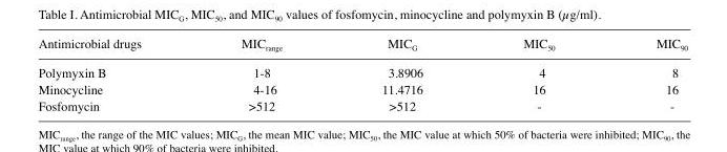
<table><thead><tr><td>Antimicrobial drugs</td><td>MIC<sub>range</sub></td><td>MIC<sub>G</sub></td><td>MIC<sub>50</sub></td><td>MIC<sub>90</sub></td></tr></thead><tbody><tr><td>Polymyxin B</td><td>1-8</td><td>3.8906</td><td>4</td><td>8</td></tr><tr><td>Minocycline</td><td>4-16</td><td>11.4716</td><td>16</td><td>16</td></tr><tr><td>Fosfomycin</td><td>&gt;512</td><td>&gt;512</td><td>-</td><td>-</td></tr></tbody></table>